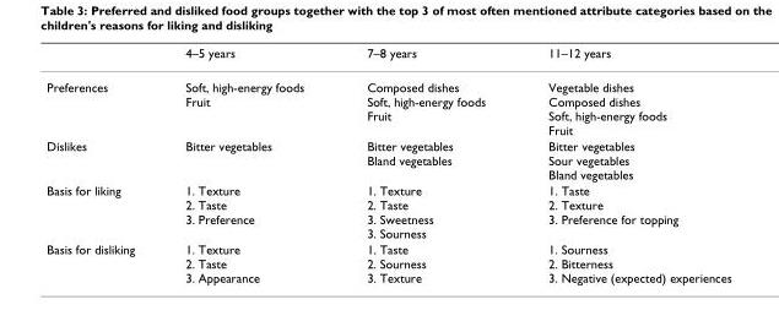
<table><thead><tr><td></td><td>4–5 years</td><td>7–8 years</td><td>11–12 years</td></tr></thead><tbody><tr><td>Preferences</td><td>Soft, high-energy foods Fruit</td><td>Composed dishes Soft, high-energy foods Fruit</td><td>Vegetable dishes Composed dishes Soft, high-energy foods Fruit</td></tr><tr><td>Dislikes</td><td>Bitter vegetables</td><td>Bitter vegetables Bland vegetables</td><td>Bitter vegetables Sour vegetables Bland vegetables</td></tr><tr><td>Basis for liking</td><td>1. Texture 2. Taste 3. Preference</td><td>1. Texture 2. Taste 3. Sweetness 3. Sourness</td><td>1. Taste 2. Texture 3. Preference for topping</td></tr><tr><td>Basis for disliking</td><td>1. Texture 2. Taste 3. Appearance</td><td>1. Taste 2. Sourness 3. Texture</td><td>1. Sourness 2. Bitterness 3. Negative (expected) experiences</td></tr></tbody></table>